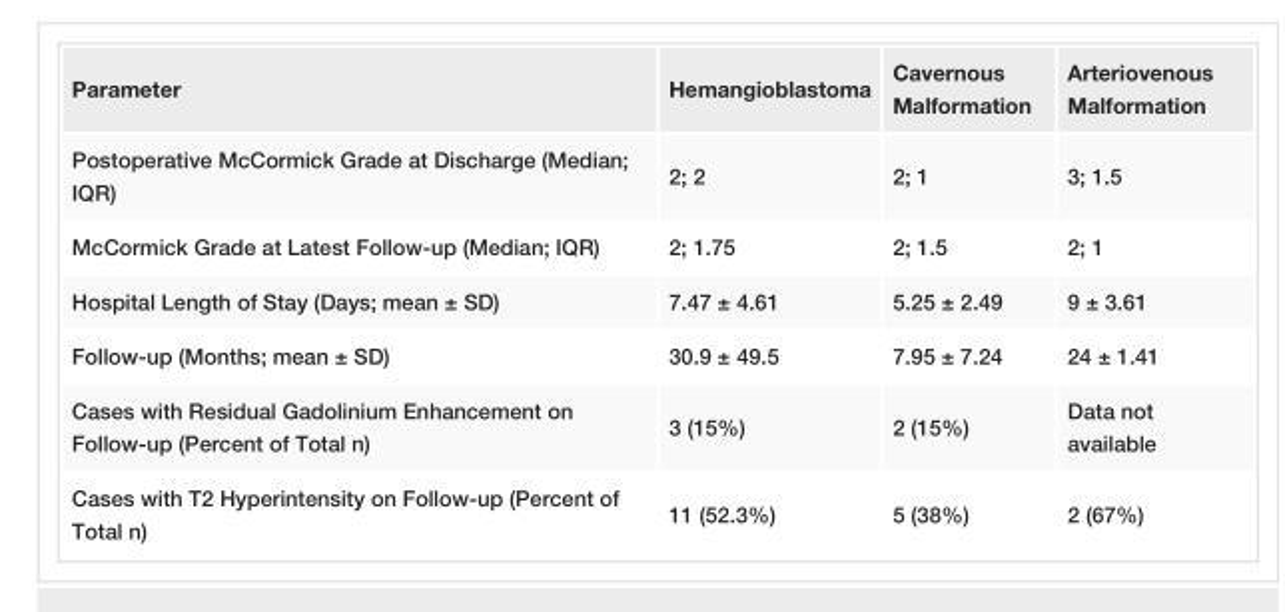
<table><tbody><tr><td>Parameter</td><td>Hemangioblastoma</td><td>Cavernous Malformation</td><td>Arteriovenous Malformation</td></tr><tr><td>Postoperative McCormick Grade at Discharge (Median; IQR)</td><td>2; 2</td><td>2; 1</td><td>3; 1.5</td></tr><tr><td>McCormick Grade at Latest Follow-up (Median; IQR)</td><td>2; 1.75</td><td>2; 1.5</td><td>2; 1</td></tr><tr><td>Hospital Length of Stay (Days; mean ± SD)</td><td>7.47 ± 4.61</td><td>5.25 ± 2.49</td><td>9 ± 3.61</td></tr><tr><td>Follow-up (Months; mean ± SD)</td><td>30.9 ± 49.5</td><td>7.95 ± 7.24</td><td>24 ± 1.41</td></tr><tr><td>Cases with Residual Gadolinium Enhancement on Follow-up (Percent of Total n)</td><td>3 (15%)</td><td>2 (15%)</td><td>Data not available</td></tr><tr><td>Cases with T2 Hyperintensity on Follow-up (Percent of Total n)</td><td>11 (52.3%)</td><td>5 (38%)</td><td>2 (67%)</td></tr></tbody></table>